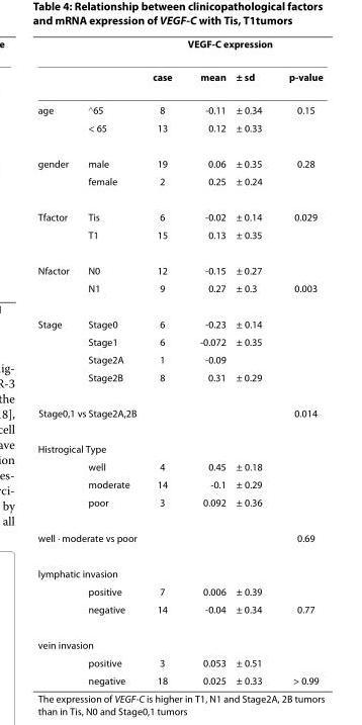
<table><thead><tr><td rowspan="2"></td><td rowspan="2"></td><td rowspan="2">case</td><td colspan="2">VEGF-C expression</td><td rowspan="2">p-value</td></tr><tr><td>mean</td><td>± sd</td></tr></thead><tbody><tr><td rowspan="2">age</td><td>≧65</td><td>8</td><td>-0.11</td><td>± 0.34</td><td>0.15</td></tr><tr><td>&lt; 65</td><td>13</td><td>0.12</td><td>± 0.33</td><td></td></tr><tr><td rowspan="2">gender</td><td>male</td><td>19</td><td>0.06</td><td>± 0.35</td><td>0.28</td></tr><tr><td>female</td><td>2</td><td>0.25</td><td>± 0.24</td><td></td></tr><tr><td rowspan="2">Tfactor</td><td>Tis</td><td>6</td><td>-0.02</td><td>± 0.14</td><td>0.029</td></tr><tr><td>T1</td><td>15</td><td>0.13</td><td>± 0.35</td><td></td></tr><tr><td rowspan="2">Nfactor</td><td>N0</td><td>12</td><td>-0.15</td><td>± 0.27</td><td></td></tr><tr><td>N1</td><td>9</td><td>0.27</td><td>± 0.3</td><td>0.003</td></tr><tr><td rowspan="4">Stage</td><td>Stage0</td><td>6</td><td>-0.23</td><td>± 0.14</td><td></td></tr><tr><td>Stage1</td><td>6</td><td>-0.072</td><td>± 0.35</td><td></td></tr><tr><td>Stage2A</td><td>1</td><td>-0.09</td><td></td><td></td></tr><tr><td>Stage2B</td><td>8</td><td>0.31</td><td>± 0.29</td><td></td></tr><tr><td colspan="2">Stage0,1 vs Stage2A,2B</td><td></td><td></td><td></td><td>0.014</td></tr><tr><td colspan="6">Histrogical Type</td></tr><tr><td></td><td>well</td><td>4</td><td>0.45</td><td>± 0.18</td><td></td></tr><tr><td></td><td>moderate</td><td>14</td><td>-0.1</td><td>± 0.29</td><td></td></tr><tr><td></td><td>poor</td><td>3</td><td>0.092</td><td>± 0.36</td><td></td></tr><tr><td colspan="2">well · moderate vs poor</td><td></td><td></td><td></td><td>0.69</td></tr><tr><td colspan="6">lymphatic invasion</td></tr><tr><td></td><td>positive</td><td>7</td><td>0.006</td><td>± 0.39</td><td></td></tr><tr><td></td><td>negative</td><td>14</td><td>-0.04</td><td>± 0.34</td><td>0.77</td></tr><tr><td colspan="6">vein invasion</td></tr><tr><td></td><td>positive</td><td>3</td><td>0.053</td><td>± 0.51</td><td></td></tr><tr><td></td><td>negative</td><td>18</td><td>0.025</td><td>± 0.33</td><td>&gt; 0.99</td></tr></tbody></table>